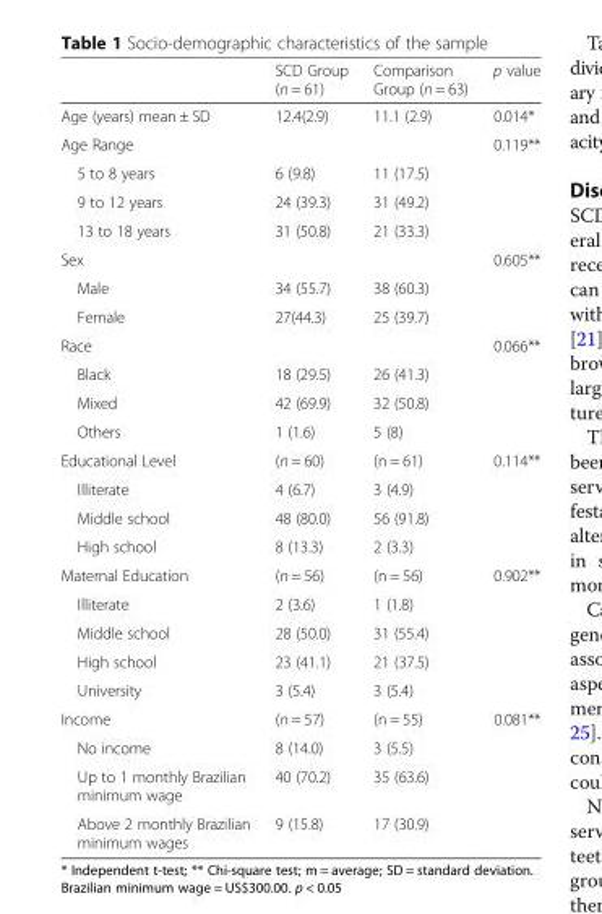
<table><thead><tr><td></td><td>SCD Group (n = 61)</td><td>Comparison Group (n = 63)</td><td>p value</td></tr></thead><tbody><tr><td>Age (years) mean ± SD</td><td>12.4(2.9)</td><td>11.1 (2.9)</td><td>0.014*</td></tr><tr><td>Age Range</td><td></td><td></td><td>0.119**</td></tr><tr><td>5 to 8 years</td><td>6 (9.8)</td><td>11 (17.5)</td><td></td></tr><tr><td>9 to 12 years</td><td>24 (39.3)</td><td>31 (49.2)</td><td></td></tr><tr><td>13 to 18 years</td><td>31 (50.8)</td><td>21 (33.3)</td><td></td></tr><tr><td>Sex</td><td></td><td></td><td>0.605**</td></tr><tr><td>Male</td><td>34 (55.7)</td><td>38 (60.3)</td><td></td></tr><tr><td>Female</td><td>27(44.3)</td><td>25 (39.7)</td><td></td></tr><tr><td>Race</td><td></td><td></td><td>0.066**</td></tr><tr><td>Black</td><td>18 (29.5)</td><td>26 (41.3)</td><td></td></tr><tr><td>Mixed</td><td>42 (69.9)</td><td>32 (50.8)</td><td></td></tr><tr><td>Others</td><td>1 (1.6)</td><td>5 (8)</td><td></td></tr><tr><td>Educational Level</td><td>(n = 60)</td><td>(n = 61)</td><td>0.114**</td></tr><tr><td>Illiterate</td><td>4 (6.7)</td><td>3 (4.9)</td><td></td></tr><tr><td>Middle school</td><td>48 (80.0)</td><td>56 (91.8)</td><td></td></tr><tr><td>High school</td><td>8 (13.3)</td><td>2 (3.3)</td><td></td></tr><tr><td>Maternal Education</td><td>(n = 56)</td><td>(n = 56)</td><td>0.902**</td></tr><tr><td>Illiterate</td><td>2 (3.6)</td><td>1 (1.8)</td><td></td></tr><tr><td>Middle school</td><td>28 (50.0)</td><td>31 (55.4)</td><td></td></tr><tr><td>High school</td><td>23 (41.1)</td><td>21 (37.5)</td><td></td></tr><tr><td>University</td><td>3 (5.4)</td><td>3 (5.4)</td><td></td></tr><tr><td>Income</td><td>(n = 57)</td><td>(n = 55)</td><td>0.081**</td></tr><tr><td>No income</td><td>8 (14.0)</td><td>3 (5.5)</td><td></td></tr><tr><td>Up to 1 monthly Brazilian minimum wage</td><td>40 (70.2)</td><td>35 (63.6)</td><td></td></tr><tr><td>Above 2 monthly Brazilian minimum wages</td><td>9 (15.8)</td><td>17 (30.9)</td><td></td></tr></tbody></table>